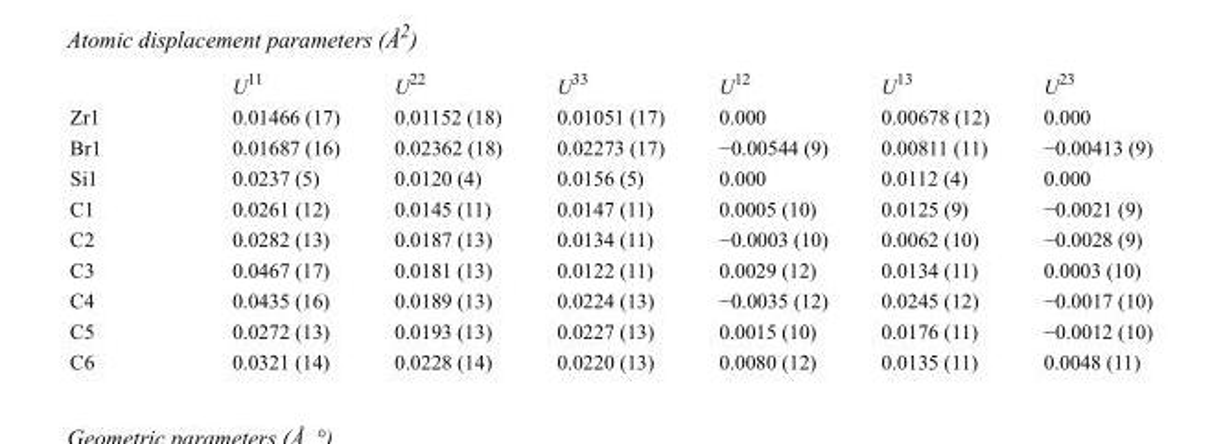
<table><thead><tr><td></td><td>U<sup>11</sup></td><td>U<sup>22</sup></td><td>U<sup>33</sup></td><td>U<sup>12</sup></td><td>U<sup>13</sup></td><td>U<sup>23</sup></td></tr></thead><tbody><tr><td>Zr1</td><td>0.01466 (17)</td><td>0.01152 (18)</td><td>0.01051 (17)</td><td>0.000</td><td>0.00678 (12)</td><td>0.000</td></tr><tr><td>Br1</td><td>0.01687 (16)</td><td>0.02362 (18)</td><td>0.02273 (17)</td><td>−0.00544 (9)</td><td>0.00811 (11)</td><td>−0.00413 (9)</td></tr><tr><td>Si1</td><td>0.0237 (5)</td><td>0.0120 (4)</td><td>0.0156 (5)</td><td>0.000</td><td>0.0112 (4)</td><td>0.000</td></tr><tr><td>C1</td><td>0.0261 (12)</td><td>0.0145 (11)</td><td>0.0147 (11)</td><td>0.0005 (10)</td><td>0.0125 (9)</td><td>−0.0021 (9)</td></tr><tr><td>C2</td><td>0.0282 (13)</td><td>0.0187 (13)</td><td>0.0134 (11)</td><td>−0.0003 (10)</td><td>0.0062 (10)</td><td>−0.0028 (9)</td></tr><tr><td>C3</td><td>0.0467 (17)</td><td>0.0181 (13)</td><td>0.0122 (11)</td><td>0.0029 (12)</td><td>0.0134 (11)</td><td>0.0003 (10)</td></tr><tr><td>C4</td><td>0.0435 (16)</td><td>0.0189 (13)</td><td>0.0224 (13)</td><td>−0.0035 (12)</td><td>0.0245 (12)</td><td>−0.0017 (10)</td></tr><tr><td>C5</td><td>0.0272 (13)</td><td>0.0193 (13)</td><td>0.0227 (13)</td><td>0.0015 (10)</td><td>0.0176 (11)</td><td>−0.0012 (10)</td></tr><tr><td>C6</td><td>0.0321 (14)</td><td>0.0228 (14)</td><td>0.0220 (13)</td><td>0.0080 (12)</td><td>0.0135 (11)</td><td>0.0048 (11)</td></tr></tbody></table>